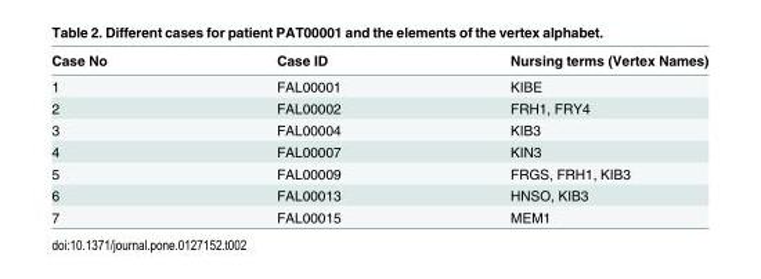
<table><thead><tr><td>Case No</td><td>Case ID</td><td>Nursing terms (Vertex Names)</td></tr></thead><tbody><tr><td>1</td><td>FAL00001</td><td>KIBE</td></tr><tr><td>2</td><td>FAL00002</td><td>FRH1, FRY4</td></tr><tr><td>3</td><td>FAL00004</td><td>KIB3</td></tr><tr><td>4</td><td>FAL00007</td><td>KIN3</td></tr><tr><td>5</td><td>FAL00009</td><td>FRGS, FRH1, KIB3</td></tr><tr><td>6</td><td>FAL00013</td><td>HNSO, KIB3</td></tr><tr><td>7</td><td>FAL00015</td><td>MEM1</td></tr></tbody></table>